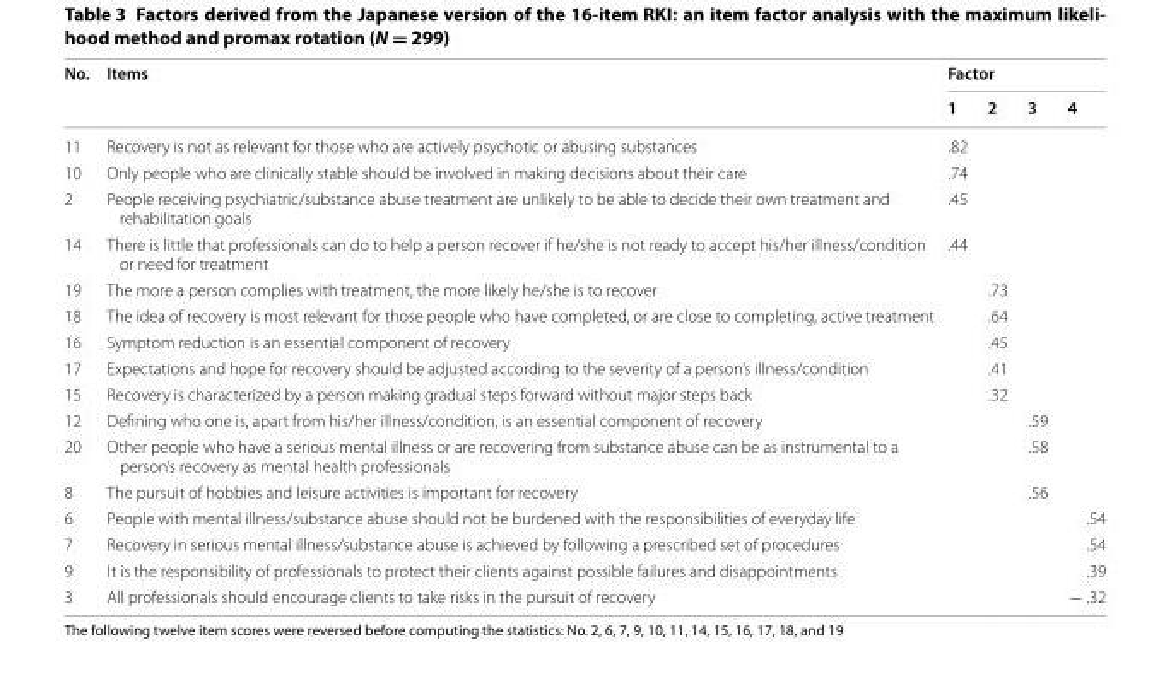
<table><thead><tr><td rowspan="2">No.</td><td rowspan="2">Items</td><td colspan="4">Factor</td></tr><tr><td>1</td><td>2</td><td>3</td><td>4</td></tr></thead><tbody><tr><td>11</td><td>Recovery is not as relevant for those who are actively psychotic or abusing substances</td><td>.82</td><td></td><td></td><td></td></tr><tr><td>10</td><td>Only people who are clinically stable should be involved in making decisions about their care</td><td>.74</td><td></td><td></td><td></td></tr><tr><td>2</td><td>People receiving psychiatric/substance abuse treatment are unlikely to be able to decide their own treatment and rehabilitation goals</td><td>.45</td><td></td><td></td><td></td></tr><tr><td>14</td><td>There is little that professionals can do to help a person recover if he/she is not ready to accept his/her illness/condition or need for treatment</td><td>.44</td><td></td><td></td><td></td></tr><tr><td>19</td><td>The more a person complies with treatment, the more likely he/she is to recover</td><td></td><td>.73</td><td></td><td></td></tr><tr><td>18</td><td>The idea of recovery is most relevant for those people who have completed, or are close to completing, active treatment</td><td></td><td>.64</td><td></td><td></td></tr><tr><td>16</td><td>Symptom reduction is an essential component of recovery</td><td></td><td>.45</td><td></td><td></td></tr><tr><td>17</td><td>Expectations and hope for recovery should be adjusted according to the severity of a person’s illness/condition</td><td></td><td>.41</td><td></td><td></td></tr><tr><td>15</td><td>Recovery is characterized by a person making gradual steps forward without major steps back</td><td></td><td>.32</td><td></td><td></td></tr><tr><td>12</td><td>Defining who one is, apart from his/her illness/condition, is an essential component of recovery</td><td></td><td></td><td>.59</td><td></td></tr><tr><td>20</td><td>Other people who have a serious mental illness or are recovering from substance abuse can be as instrumental to a person’s recovery as mental health professionals</td><td></td><td></td><td>.58</td><td></td></tr><tr><td>8</td><td>The pursuit of hobbies and leisure activities is important for recovery</td><td></td><td></td><td>.56</td><td></td></tr><tr><td>6</td><td>People with mental illness/substance abuse should not be burdened with the responsibilities of everyday life</td><td></td><td></td><td></td><td>.54</td></tr><tr><td>7</td><td>Recovery in serious mental illness/substance abuse is achieved by following a prescribed set of procedures</td><td></td><td></td><td></td><td>.54</td></tr><tr><td>9</td><td>It is the responsibility of professionals to protect their clients against possible failures and disappointments</td><td></td><td></td><td></td><td>.39</td></tr><tr><td>3</td><td>All professionals should encourage clients to take risks in the pursuit of recovery</td><td></td><td></td><td></td><td>− .32</td></tr></tbody></table>